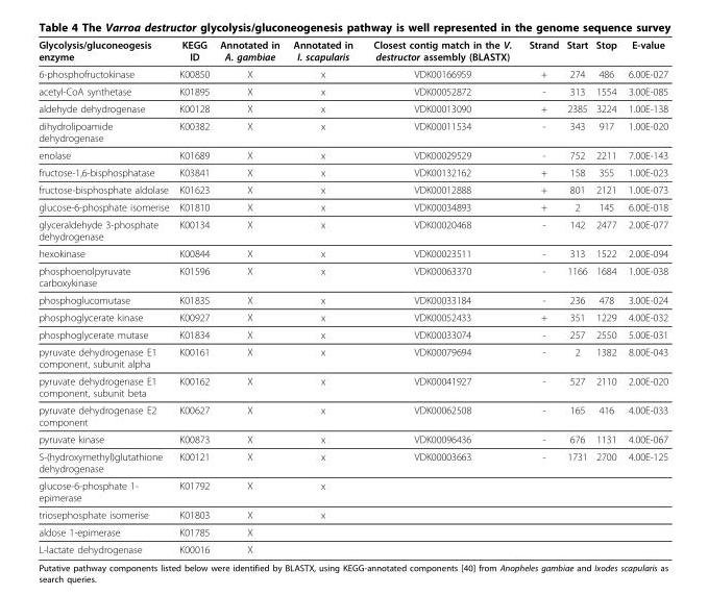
<table><thead><tr><td>Glycolysis/gluconeogesis enzyme</td><td>KEGG ID</td><td>Annotated in A. gambiae</td><td>Annotated in I. scapularis</td><td>Closest contig match in the V. destructor assembly (BLASTX)</td><td>Strand</td><td>Start</td><td>Stop</td><td>E-value</td></tr></thead><tbody><tr><td>6-phosphofructokinase</td><td>K00850</td><td>X</td><td>x</td><td>VDK00166959</td><td>+</td><td>274</td><td>486</td><td>6.00E-027</td></tr><tr><td>acetyl-CoA synthetase</td><td>K01895</td><td>X</td><td>x</td><td>VDK00052872</td><td>-</td><td>313</td><td>1554</td><td>3.00E-085</td></tr><tr><td>aldehyde dehydrogenase</td><td>K00128</td><td>X</td><td>x</td><td>VDK00013090</td><td>+</td><td>2385</td><td>3224</td><td>1.00E-138</td></tr><tr><td>dihydrolipoamide dehydrogenase</td><td>K00382</td><td>X</td><td>x</td><td>VDK00011534</td><td>-</td><td>343</td><td>917</td><td>1.00E-020</td></tr><tr><td>enolase</td><td>K01689</td><td>X</td><td>x</td><td>VDK00029529</td><td>-</td><td>752</td><td>2211</td><td>7.00E-143</td></tr><tr><td>fructose-1,6-bisphosphatase</td><td>K03841</td><td>X</td><td>x</td><td>VDK00132162</td><td>+</td><td>158</td><td>355</td><td>1.00E-023</td></tr><tr><td>fructose-bisphosphate aldolase</td><td>K01623</td><td>X</td><td>x</td><td>VDK00012888</td><td>+</td><td>801</td><td>2121</td><td>1.00E-073</td></tr><tr><td>glucose-6-phosphate isomerise</td><td>K01810</td><td>X</td><td>x</td><td>VDK00034893</td><td>+</td><td>2</td><td>145</td><td>6.00E-018</td></tr><tr><td>glyceraldehyde 3-phosphate dehydrogenase</td><td>K00134</td><td>X</td><td>x</td><td>VDK00020468</td><td>-</td><td>142</td><td>2477</td><td>2.00E-077</td></tr><tr><td>hexokinase</td><td>K00844</td><td>X</td><td>x</td><td>VDK00023511</td><td>-</td><td>313</td><td>1522</td><td>2.00E-094</td></tr><tr><td>phosphoenolpyruvate carboxykinase</td><td>K01596</td><td>X</td><td>x</td><td>VDK00063370</td><td>-</td><td>1166</td><td>1684</td><td>1.00E-038</td></tr><tr><td>phosphoglucomutase</td><td>K01835</td><td>X</td><td>x</td><td>VDK00033184</td><td>-</td><td>236</td><td>478</td><td>3.00E-024</td></tr><tr><td>phosphoglycerate kinase</td><td>K00927</td><td>X</td><td>x</td><td>VDK00052433</td><td>+</td><td>351</td><td>1229</td><td>4.00E-032</td></tr><tr><td>phosphoglycerate mutase</td><td>K01834</td><td>X</td><td>x</td><td>VDK00033074</td><td>-</td><td>257</td><td>2550</td><td>5.00E-031</td></tr><tr><td>pyruvate dehydrogenase E1 component, subunit alpha</td><td>K00161</td><td>X</td><td>x</td><td>VDK00079694</td><td>-</td><td>2</td><td>1382</td><td>8.00E-043</td></tr><tr><td>pyruvate dehydrogenase E1 component, subunit beta</td><td>K00162</td><td>X</td><td>x</td><td>VDK00041927</td><td>-</td><td>527</td><td>2110</td><td>2.00E-020</td></tr><tr><td>pyruvate dehydrogenase E2 component</td><td>K00627</td><td>X</td><td>x</td><td>VDK00062508</td><td>-</td><td>165</td><td>416</td><td>4.00E-033</td></tr><tr><td>pyruvate kinase</td><td>K00873</td><td>X</td><td>x</td><td>VDK00096436</td><td>-</td><td>676</td><td>1131</td><td>4.00E-067</td></tr><tr><td>S-(hydroxymethyl)glutathione dehydrogenase</td><td>K00121</td><td>X</td><td>x</td><td>VDK00003663</td><td>-</td><td>1731</td><td>2700</td><td>4.00E-125</td></tr><tr><td>glucose-6-phosphate 1- epimerase</td><td>K01792</td><td>X</td><td>x</td><td></td><td></td><td></td><td></td><td></td></tr><tr><td>triosephosphate isomerise</td><td>K01803</td><td>X</td><td>x</td><td></td><td></td><td></td><td></td><td></td></tr><tr><td>aldose 1-epimerase</td><td>K01785</td><td>X</td><td></td><td></td><td></td><td></td><td></td><td></td></tr><tr><td>L-lactate dehydrogenase</td><td>K00016</td><td>X</td><td></td><td></td><td></td><td></td><td></td><td></td></tr></tbody></table>